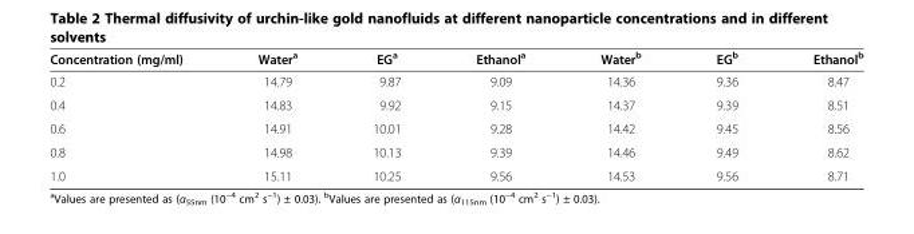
<table><thead><tr><td>Concentration (mg/ml)</td><td>Water<sup>a</sup></td><td>EG<sup>a</sup></td><td>Ethanol<sup>a</sup></td><td>Water<sup>b</sup></td><td>EG<sup>b</sup></td><td>Ethanol<sup>b</sup></td></tr></thead><tbody><tr><td>0.2</td><td>14.79</td><td>9.87</td><td>9.09</td><td>14.36</td><td>9.36</td><td>8.47</td></tr><tr><td>0.4</td><td>14.83</td><td>9.92</td><td>9.15</td><td>14.37</td><td>9.39</td><td>8.51</td></tr><tr><td>0.6</td><td>14.91</td><td>10.01</td><td>9.28</td><td>14.42</td><td>9.45</td><td>8.56</td></tr><tr><td>0.8</td><td>14.98</td><td>10.13</td><td>9.39</td><td>14.46</td><td>9.49</td><td>8.62</td></tr><tr><td>1.0</td><td>15.11</td><td>10.25</td><td>9.56</td><td>14.53</td><td>9.56</td><td>8.71</td></tr></tbody></table>